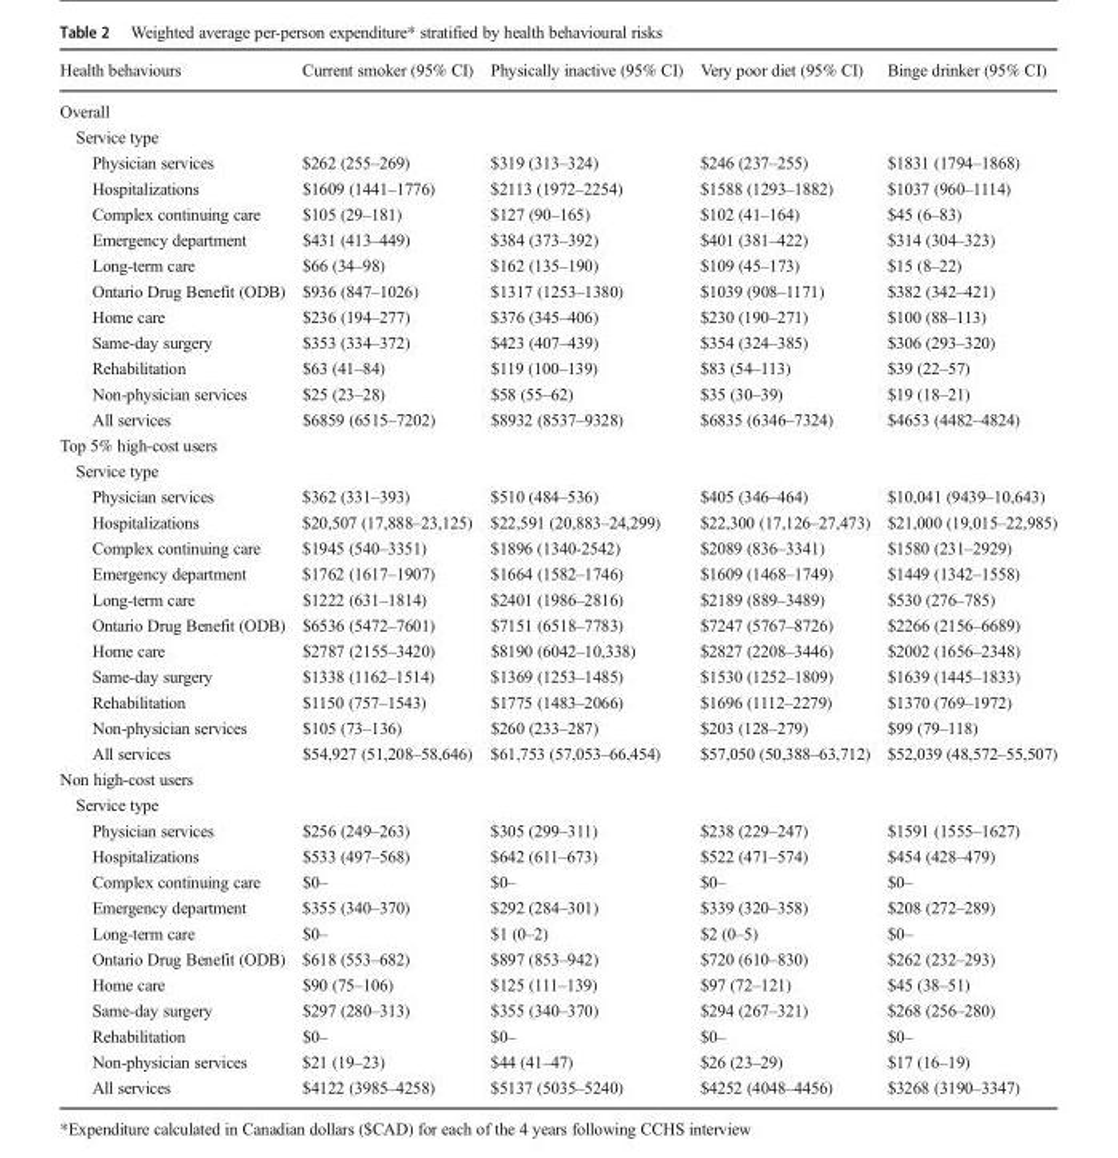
<table><thead><tr><td>Health behaviours</td><td>Current smoker (95% CI)</td><td>Physically inactive (95% CI)</td><td>Very poor diet (95% CI)</td><td>Binge drinker (95% CI)</td></tr></thead><tbody><tr><td colspan="5">Overall</td></tr><tr><td colspan="5">Service type</td></tr><tr><td>Physician services</td><td>$262 (255–269)</td><td>$319 (313–324)</td><td>$246 (237–255)</td><td>$1831 (1794–1868)</td></tr><tr><td>Hospitalizations</td><td>$1609 (1441–1776)</td><td>$2113 (1972–2254)</td><td>$1588 (1293–1882)</td><td>$1037 (960–1114)</td></tr><tr><td>Complex continuing care</td><td>$105 (29–181)</td><td>$127 (90–165)</td><td>$102 (41–164)</td><td>$45 (6–83)</td></tr><tr><td>Emergency department</td><td>$431 (413–449)</td><td>$384 (373–392)</td><td>$401 (381–422)</td><td>$314 (304–323)</td></tr><tr><td>Long-term care</td><td>$66 (34–98)</td><td>$162 (135–190)</td><td>$109 (45–173)</td><td>$15 (8–22)</td></tr><tr><td>Ontario Drug Benefit (ODB)</td><td>$936 (847–1026)</td><td>$1317 (1253–1380)</td><td>$1039 (908–1171)</td><td>$382 (342–421)</td></tr><tr><td>Home care</td><td>$236 (194–277)</td><td>$376 (345–406)</td><td>$230 (190–271)</td><td>$100 (88–113)</td></tr><tr><td>Same-day surgery</td><td>$353 (334–372)</td><td>$423 (407–439)</td><td>$354 (324–385)</td><td>$306 (293–320)</td></tr><tr><td>Rehabilitation</td><td>$63 (41–84)</td><td>$119 (100–139)</td><td>$83 (54–113)</td><td>$39 (22–57)</td></tr><tr><td>Non-physician services</td><td>$25 (23–28)</td><td>$58 (55–62)</td><td>$35 (30–39)</td><td>$19 (18–21)</td></tr><tr><td>All services</td><td>$6859 (6515–7202)</td><td>$8932 (8537–9328)</td><td>$6835 (6346–7324)</td><td>$4653 (4482–4824)</td></tr><tr><td colspan="5">Top 5% high-cost users</td></tr><tr><td colspan="5">Service type</td></tr><tr><td>Physician services</td><td>$362 (331–393)</td><td>$510 (484–536)</td><td>$405 (346–464)</td><td>$10,041 (9439–10,643)</td></tr><tr><td>Hospitalizations</td><td>$20,507 (17,888–23,125)</td><td>$22,591 (20,883–24,299)</td><td>$22,300 (17,126–27,473)</td><td>$21,000 (19,015–22,985)</td></tr><tr><td>Complex continuing care</td><td>$1945 (540–3351)</td><td>$1896 (1340-2542)</td><td>$2089 (836–3341)</td><td>$1580 (231–2929)</td></tr><tr><td>Emergency department</td><td>$1762 (1617–1907)</td><td>$1664 (1582–1746)</td><td>$1609 (1468–1749)</td><td>$1449 (1342–1558)</td></tr><tr><td>Long-term care</td><td>$1222 (631–1814)</td><td>$2401 (1986–2816)</td><td>$2189 (889–3489)</td><td>$530 (276–785)</td></tr><tr><td>Ontario Drug Benefit (ODB)</td><td>$6536 (5472–7601)</td><td>$7151 (6518–7783)</td><td>$7247 (5767–8726)</td><td>$2266 (2156–6689)</td></tr><tr><td>Home care</td><td>$2787 (2155–3420)</td><td>$8190 (6042–10,338)</td><td>$2827 (2208–3446)</td><td>$2002 (1656–2348)</td></tr><tr><td>Same-day surgery</td><td>$1338 (1162–1514)</td><td>$1369 (1253–1485)</td><td>$1530 (1252–1809)</td><td>$1639 (1445–1833)</td></tr><tr><td>Rehabilitation</td><td>$1150 (757–1543)</td><td>$1775 (1483–2066)</td><td>$1696 (1112–2279)</td><td>$1370 (769–1972)</td></tr><tr><td>Non-physician services</td><td>$105 (73–136)</td><td>$260 (233–287)</td><td>$203 (128–279)</td><td>$99 (79–118)</td></tr><tr><td>All services</td><td>$54,927 (51,208–58,646)</td><td>$61,753 (57,053–66,454)</td><td>$57,050 (50,388–63,712)</td><td>$52,039 (48,572–55,507)</td></tr><tr><td colspan="5">Non high-cost users</td></tr><tr><td colspan="5">Service type</td></tr><tr><td>Physician services</td><td>$256 (249–263)</td><td>$305 (299–311)</td><td>$238 (229–247)</td><td>$1591 (1555–1627)</td></tr><tr><td>Hospitalizations</td><td>$533 (497–568)</td><td>$642 (611–673)</td><td>$522 (471–574)</td><td>$454 (428–479)</td></tr><tr><td>Complex continuing care</td><td>$0–</td><td>$0–</td><td>$0–</td><td>$0–</td></tr><tr><td>Emergency department</td><td>$355 (340–370)</td><td>$292 (284–301)</td><td>$339 (320–358)</td><td>$208 (272–289)</td></tr><tr><td>Long-term care</td><td>$0–</td><td>$1 (0–2)</td><td>$2 (0–5)</td><td>$0–</td></tr><tr><td>Ontario Drug Benefit (ODB)</td><td>$618 (553–682)</td><td>$897 (853–942)</td><td>$720 (610–830)</td><td>$262 (232–293)</td></tr><tr><td>Home care</td><td>$90 (75–106)</td><td>$125 (111–139)</td><td>$97 (72–121)</td><td>$45 (38–51)</td></tr><tr><td>Same-day surgery</td><td>$297 (280–313)</td><td>$355 (340–370)</td><td>$294 (267–321)</td><td>$268 (256–280)</td></tr><tr><td>Rehabilitation</td><td>$0–</td><td>$0–</td><td>$0–</td><td>$0–</td></tr><tr><td>Non-physician services</td><td>$21 (19–23)</td><td>$44 (41–47)</td><td>$26 (23–29)</td><td>$17 (16–19)</td></tr><tr><td>All services</td><td>$4122 (3985–4258)</td><td>$5137 (5035–5240)</td><td>$4252 (4048–4456)</td><td>$3268 (3190–3347)</td></tr></tbody></table>